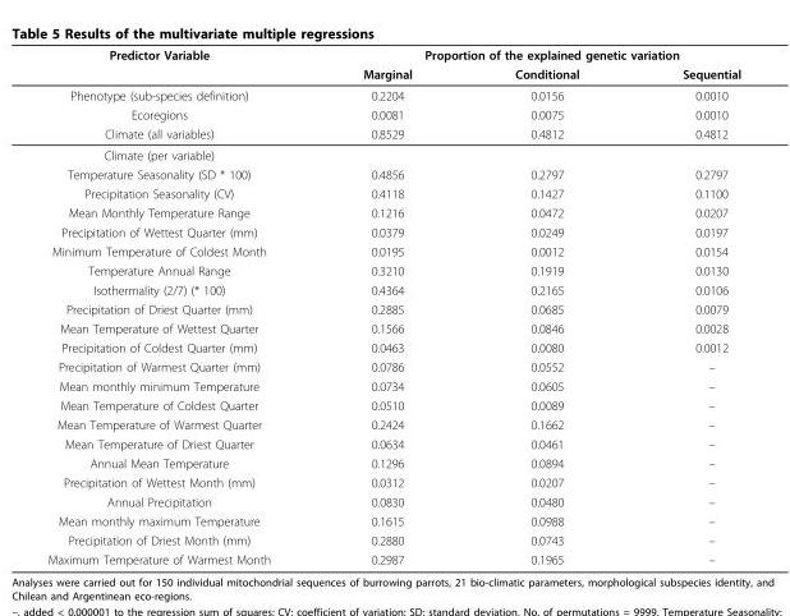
<table><thead><tr><td rowspan="2">Predictor Variable</td><td colspan="3">Proportion of the explained genetic variation</td></tr><tr><td>Marginal</td><td>Conditional</td><td>Sequential</td></tr></thead><tbody><tr><td>Phenotype (sub-species definition)</td><td>0.2204</td><td>0.0156</td><td>0.0010</td></tr><tr><td>Ecoregions</td><td>0.0081</td><td>0.0075</td><td>0.0010</td></tr><tr><td>Climate (all variables)</td><td>0.8529</td><td>0.4812</td><td>0.4812</td></tr><tr><td colspan="4">Climate (per variable)</td></tr><tr><td>Temperature Seasonality (SD * 100)</td><td>0.4856</td><td>0.2797</td><td>0.2797</td></tr><tr><td>Precipitation Seasonality (CV)</td><td>0.4118</td><td>0.1427</td><td>0.1100</td></tr><tr><td>Mean Monthly Temperature Range</td><td>0.1216</td><td>0.0472</td><td>0.0207</td></tr><tr><td>Precipitation of Wettest Quarter (mm)</td><td>0.0379</td><td>0.0249</td><td>0.0197</td></tr><tr><td>Minimum Temperature of Coldest Month</td><td>0.0195</td><td>0.0012</td><td>0.0154</td></tr><tr><td>Temperature Annual Range</td><td>0.3210</td><td>0.1919</td><td>0.0130</td></tr><tr><td>Isothermality (2/7) (* 100)</td><td>0.4364</td><td>0.2165</td><td>0.0106</td></tr><tr><td>Precipitation of Driest Quarter (mm)</td><td>0.2885</td><td>0.0685</td><td>0.0079</td></tr><tr><td>Mean Temperature of Wettest Quarter</td><td>0.1566</td><td>0.0846</td><td>0.0028</td></tr><tr><td>Precipitation of Coldest Quarter (mm)</td><td>0.0463</td><td>0.0080</td><td>0.0012</td></tr><tr><td>Precipitation of Warmest Quarter (mm)</td><td>0.0786</td><td>0.0552</td><td>–</td></tr><tr><td>Mean monthly minimum Temperature</td><td>0.0734</td><td>0.0605</td><td>–</td></tr><tr><td>Mean Temperature of Coldest Quarter</td><td>0.0510</td><td>0.0089</td><td>–</td></tr><tr><td>Mean Temperature of Warmest Quarter</td><td>0.2424</td><td>0.1662</td><td>–</td></tr><tr><td>Mean Temperature of Driest Quarter</td><td>0.0634</td><td>0.0461</td><td>–</td></tr><tr><td>Annual Mean Temperature</td><td>0.1296</td><td>0.0894</td><td>–</td></tr><tr><td>Precipitation of Wettest Month (mm)</td><td>0.0312</td><td>0.0207</td><td>–</td></tr><tr><td>Annual Precipitation</td><td>0.0830</td><td>0.0480</td><td>–</td></tr><tr><td>Mean monthly maximum Temperature</td><td>0.1615</td><td>0.0988</td><td>–</td></tr><tr><td>Precipitation of Driest Month (mm)</td><td>0.2880</td><td>0.0743</td><td>–</td></tr><tr><td>Maximum Temperature of Warmest Month</td><td>0.2987</td><td>0.1965</td><td>–</td></tr></tbody></table>